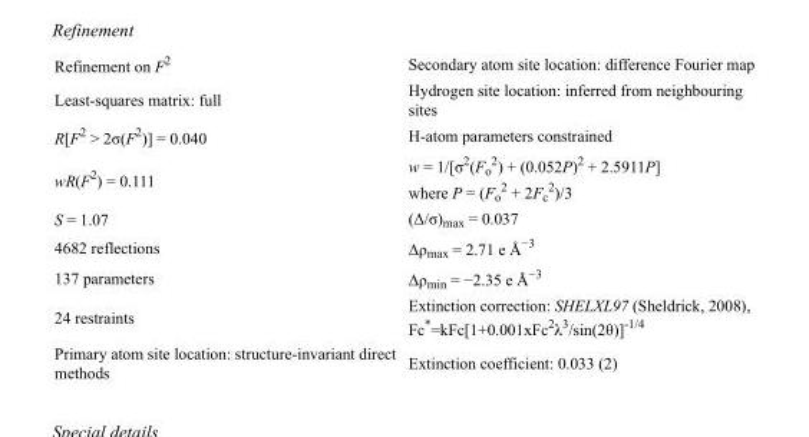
<table><tbody><tr><td>Refinement on F<sup>2</sup></td><td>Secondary atom site location: difference Fourier map</td></tr><tr><td>Least-squares matrix: full</td><td>Hydrogen site location: inferred from neighbouring sites</td></tr><tr><td>R[F<sup>2</sup> &gt; 2σ(F<sup>2</sup>)] = 0.040</td><td>H-atom parameters constrained</td></tr><tr><td>wR(F<sup>2</sup>) = 0.111</td><td>w = 1/[σ<sup>2</sup>(F<sub>o</sub> <sup>2</sup>) + (0.052P)<sup>2</sup> + 2.5911P] where P = (F<sub>o</sub> <sup>2</sup> + 2F<sub>c</sub> <sup>2</sup>)/3</td></tr><tr><td>S = 1.07</td><td>(Δ/σ)<sub>max</sub> = 0.037</td></tr><tr><td>4682 reflections</td><td>Δρ<sub>max</sub> = 2.71 e Å<sup>−3</sup></td></tr><tr><td>137 parameters</td><td>Δρ<sub>min</sub> = −2.35 e Å<sup>−3</sup></td></tr><tr><td>24 restraints</td><td>Extinction correction: SHELXL97 (Sheldrick, 2008), Fc*=kFc[1+0.001xFc<sup>2</sup>λ<sup>3</sup>/sin(2θ)]<sup>-1/4</sup></td></tr><tr><td>Primary atom site location: structure-invariant direct methods</td><td>Extinction coefficient: 0.033 (2)</td></tr></tbody></table>